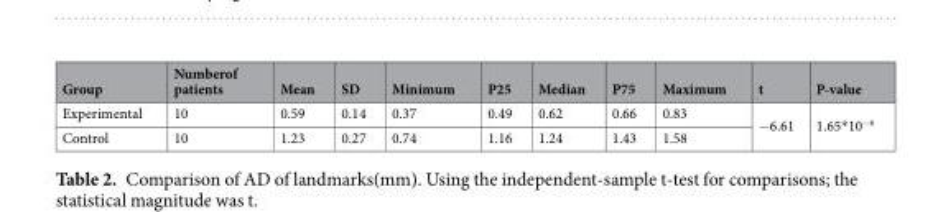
<table><thead><tr><td>Group</td><td>Numberof patients</td><td>Mean</td><td>SD</td><td>Minimum</td><td>P25</td><td>Median</td><td>P75</td><td>Maximum</td><td>t</td><td>P-value</td></tr></thead><tbody><tr><td>Experimental</td><td>10</td><td>0.59</td><td>0.14</td><td>0.37</td><td>0.49</td><td>0.62</td><td>0.66</td><td>0.83</td><td rowspan="2">−6.61</td><td rowspan="2">1.65*10<sup>−6</sup></td></tr><tr><td>Control</td><td>10</td><td>1.23</td><td>0.27</td><td>0.74</td><td>1.16</td><td>1.24</td><td>1.43</td><td>1.58</td></tr></tbody></table>